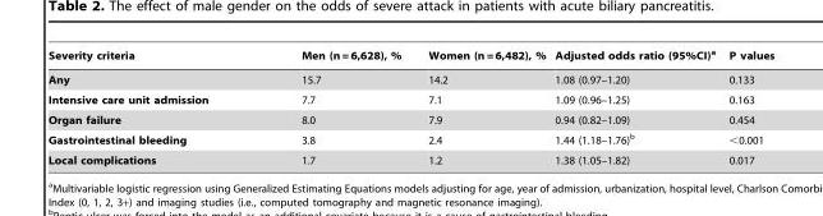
<table><thead><tr><td>Severity criteria</td><td>Men (n = 6,628), %</td><td>Women (n = 6,482), %</td><td>Adjusted odds ratio (95%CI)<sup>a</sup></td><td>P values</td></tr></thead><tbody><tr><td>Any</td><td>15.7</td><td>14.2</td><td>1.08 (0.97–1.20)</td><td>0.133</td></tr><tr><td>Intensive care unit admission</td><td>7.7</td><td>7.1</td><td>1.09 (0.96–1.25)</td><td>0.163</td></tr><tr><td>Organ failure</td><td>8.0</td><td>7.9</td><td>0.94 (0.82–1.09)</td><td>0.454</td></tr><tr><td>Gastrointestinal bleeding</td><td>3.8</td><td>2.4</td><td>1.44 (1.18–1.76)<sup>b</sup></td><td>&lt;0.001</td></tr><tr><td>Local complications</td><td>1.7</td><td>1.2</td><td>1.38 (1.05–1.82)</td><td>0.017</td></tr></tbody></table>